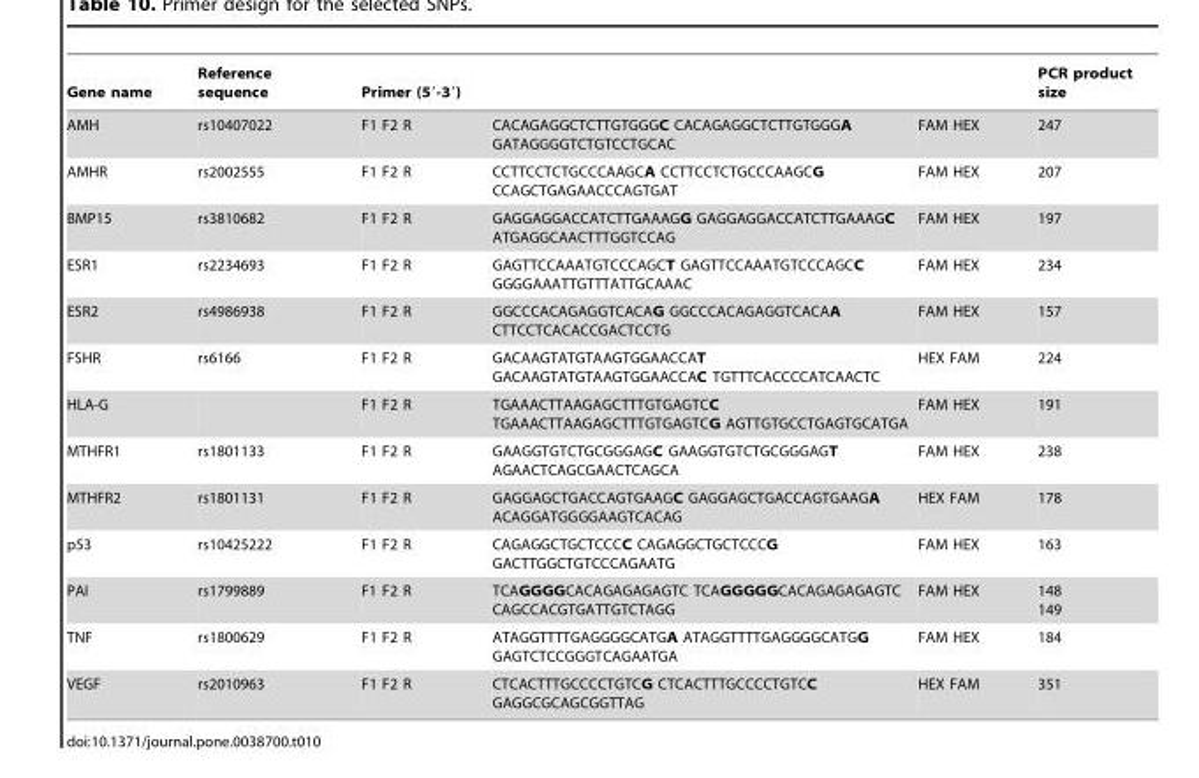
<table><thead><tr><td rowspan="2">Gene name AMH</td><td rowspan="2">Reference sequence rs10407022</td><td colspan="3">Primer (5′-3′)</td><td rowspan="2">PCR product size 247</td></tr><tr><td>F1 F2 R</td><td>CACAGAGGCTCTTGTGGGC CACAGAGGCTCTTGTGGGA GATAGGGGTCTGTCCTGCAC</td><td>FAM HEX</td></tr></thead><tbody><tr><td>AMHR</td><td>rs2002555</td><td>F1 F2 R</td><td>CCTTCCTCTGCCCAAGCA CCTTCCTCTGCCCAAGCG CCAGCTGAGAACCCAGTGAT</td><td>FAM HEX</td><td>207</td></tr><tr><td>BMP15</td><td>rs3810682</td><td>F1 F2 R</td><td>GAGGAGGACCATCTTGAAAGG GAGGAGGACCATCTTGAAAGC ATGAGGCAACTTTGGTCCAG</td><td>FAM HEX</td><td>197</td></tr><tr><td>ESR1</td><td>rs2234693</td><td>F1 F2 R</td><td>GAGTTCCAAATGTCCCAGCT GAGTTCCAAATGTCCCAGCC GGGGAAATTGTTTATTGCAAAC</td><td>FAM HEX</td><td>234</td></tr><tr><td>ESR2</td><td>rs4986938</td><td>F1 F2 R</td><td>GGCCCACAGAGGTCACAG GGCCCACAGAGGTCACAA CTTCCTCACACCGACTCCTG</td><td>FAM HEX</td><td>157</td></tr><tr><td>FSHR</td><td>rs6166</td><td>F1 F2 R</td><td>GACAAGTATGTAAGTGGAACCAT GACAAGTATGTAAGTGGAACCAC TGTTTCACCCCATCAACTC</td><td>HEX FAM</td><td>224</td></tr><tr><td>HLA-G</td><td></td><td>F1 F2 R</td><td>TGAAACTTAAGAGCTTTGTGAGTCC TGAAACTTAAGAGCTTTGTGAGTCG AGTTGTGCCTGAGTGCATGA</td><td>FAM HEX</td><td>191</td></tr><tr><td>MTHFR1</td><td>rs1801133</td><td>F1 F2 R</td><td>GAAGGTGTCTGCGGGAGC GAAGGTGTCTGCGGGAGT AGAACTCAGCGAACTCAGCA</td><td>FAM HEX</td><td>238</td></tr><tr><td>MTHFR2</td><td>rs1801131</td><td>F1 F2 R</td><td>GAGGAGCTGACCAGTGAAGC GAGGAGCTGACCAGTGAAGA ACAGGATGGGGAAGTCACAG</td><td>HEX FAM</td><td>178</td></tr><tr><td>p53</td><td>rs10425222</td><td>F1 F2 R</td><td>CAGAGGCTGCTCCCC CAGAGGCTGCTCCCG GACTTGGCTGTCCCAGAATG</td><td>FAM HEX</td><td>163</td></tr><tr><td>PAI</td><td>rs1799889</td><td>F1 F2 R</td><td>TCAGGGGCACAGAGAGAGTC TCAGGGGGCACAGAGAGAGTC CAGCCACGTGATTGTCTAGG</td><td>FAM HEX</td><td>148 149</td></tr><tr><td>TNF</td><td>rs1800629</td><td>F1 F2 R</td><td>ATAGGTTTTGAGGGGCATGA ATAGGTTTTGAGGGGCATGG GAGTCTCCGGGTCAGAATGA</td><td>FAM HEX</td><td>184</td></tr><tr><td>VEGF</td><td>rs2010963</td><td>F1 F2 R</td><td>CTCACTTTGCCCCTGTCG CTCACTTTGCCCCTGTCC GAGGCGCAGCGGTTAG</td><td>HEX FAM</td><td>351</td></tr></tbody></table>